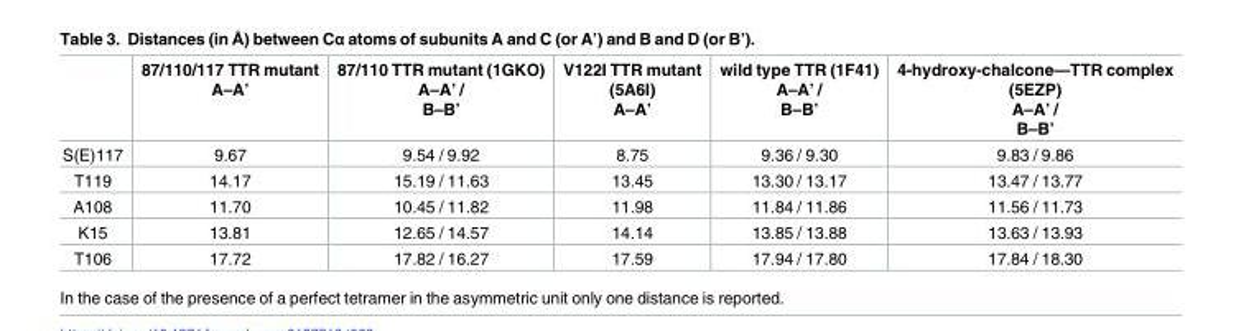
<table><thead><tr><td></td><td>87/110/117 TTR mutant A–A’</td><td>87/110 TTR mutant (1GKO) A–A’ / B–B’</td><td>V122I TTR mutant (5A6I) A–A’</td><td>wild type TTR (1F41) A–A’ / B–B’</td><td>4-hydroxy-chalcone—TTR complex (5EZP) A–A’ / B–B’</td></tr></thead><tbody><tr><td>S(E)117</td><td>9.67</td><td>9.54 / 9.92</td><td>8.75</td><td>9.36 / 9.30</td><td>9.83 / 9.86</td></tr><tr><td>T119</td><td>14.17</td><td>15.19 / 11.63</td><td>13.45</td><td>13.30 / 13.17</td><td>13.47 / 13.77</td></tr><tr><td>A108</td><td>11.70</td><td>10.45 / 11.82</td><td>11.98</td><td>11.84 / 11.86</td><td>11.56 / 11.73</td></tr><tr><td>K15</td><td>13.81</td><td>12.65 / 14.57</td><td>14.14</td><td>13.85 / 13.88</td><td>13.63 / 13.93</td></tr><tr><td>T106</td><td>17.72</td><td>17.82 / 16.27</td><td>17.59</td><td>17.94 / 17.80</td><td>17.84 / 18.30</td></tr></tbody></table>